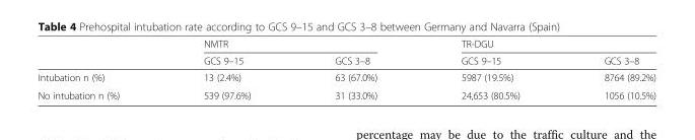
<table><thead><tr><td rowspan="2"></td><td colspan="2">NMTR</td><td colspan="2">TR-DGU</td></tr><tr><td>GCS 9–15</td><td>GCS 3–8</td><td>GCS 9–15</td><td>GCS 3–8</td></tr></thead><tbody><tr><td>Intubation n (%)</td><td>13 (2.4%)</td><td>63 (67.0%)</td><td>5987 (19.5%)</td><td>8764 (89.2%)</td></tr><tr><td>No intubation n (%)</td><td>539 (97.6%)</td><td>31 (33.0%)</td><td>24,653 (80.5%)</td><td>1056 (10.5%)</td></tr></tbody></table>